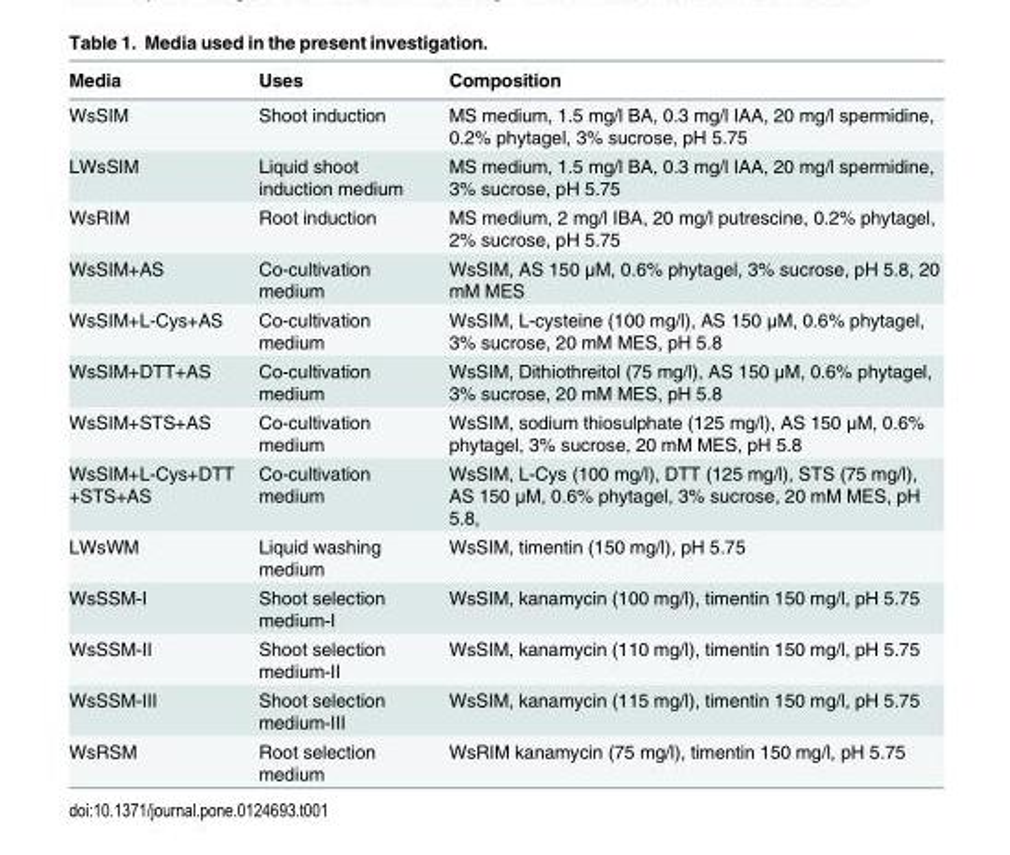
<table><thead><tr><td>Media</td><td>Uses</td><td>Composition</td></tr></thead><tbody><tr><td>WsSIM</td><td>Shoot induction</td><td>MS medium, 1.5 mg/l BA, 0.3 mg/l IAA, 20 mg/l spermidine, 0.2% phytagel, 3% sucrose, pH 5.75</td></tr><tr><td>LWsSIM</td><td>Liquid shoot induction medium</td><td>MS medium, 1.5 mg/l BA, 0.3 mg/l IAA, 20 mg/l spermidine, 3% sucrose, pH 5.75</td></tr><tr><td>WsRIM</td><td>Root induction</td><td>MS medium, 2 mg/l IBA, 20 mg/l putrescine, 0.2% phytagel, 2% sucrose, pH 5.75</td></tr><tr><td>WsSIM+AS</td><td>Co-cultivation medium</td><td>WsSIM, AS 150 μM, 0.6% phytagel, 3% sucrose, pH 5.8, 20 mM MES</td></tr><tr><td>WsSIM+L-Cys+AS</td><td>Co-cultivation medium</td><td>WsSIM, L-cysteine (100 mg/l), AS 150 μM, 0.6% phytagel, 3% sucrose, 20 mM MES, pH 5.8</td></tr><tr><td>WsSIM+DTT+AS</td><td>Co-cultivation medium</td><td>WsSIM, Dithiothreitol (75 mg/l), AS 150 μM, 0.6% phytagel, 3% sucrose, 20 mM MES, pH 5.8</td></tr><tr><td>WsSIM+STS+AS</td><td>Co-cultivation medium</td><td>WsSIM, sodium thiosulphate (125 mg/l), AS 150 μM, 0.6% phytagel, 3% sucrose, 20 mM MES, pH 5.8</td></tr><tr><td>WsSIM+L-Cys+DTT +STS+AS</td><td>Co-cultivation medium</td><td>WsSIM, L-Cys (100 mg/l), DTT (125 mg/l), STS (75 mg/l), AS 150 μM, 0.6% phytagel, 3% sucrose, 20 mM MES, pH 5.8,</td></tr><tr><td>LWsWM</td><td>Liquid washing medium</td><td>WsSIM, timentin (150 mg/l), pH 5.75</td></tr><tr><td>WsSSM-I</td><td>Shoot selection medium-I</td><td>WsSIM, kanamycin (100 mg/l), timentin 150 mg/l, pH 5.75</td></tr><tr><td>WsSSM-II</td><td>Shoot selection medium-II</td><td>WsSIM, kanamycin (110 mg/l), timentin 150 mg/l, pH 5.75</td></tr><tr><td>WsSSM-III</td><td>Shoot selection medium-III</td><td>WsSIM, kanamycin (115 mg/l), timentin 150 mg/l, pH 5.75</td></tr><tr><td>WsRSM</td><td>Root selection medium</td><td>WsRIM kanamycin (75 mg/l), timentin 150 mg/l, pH 5.75</td></tr></tbody></table>